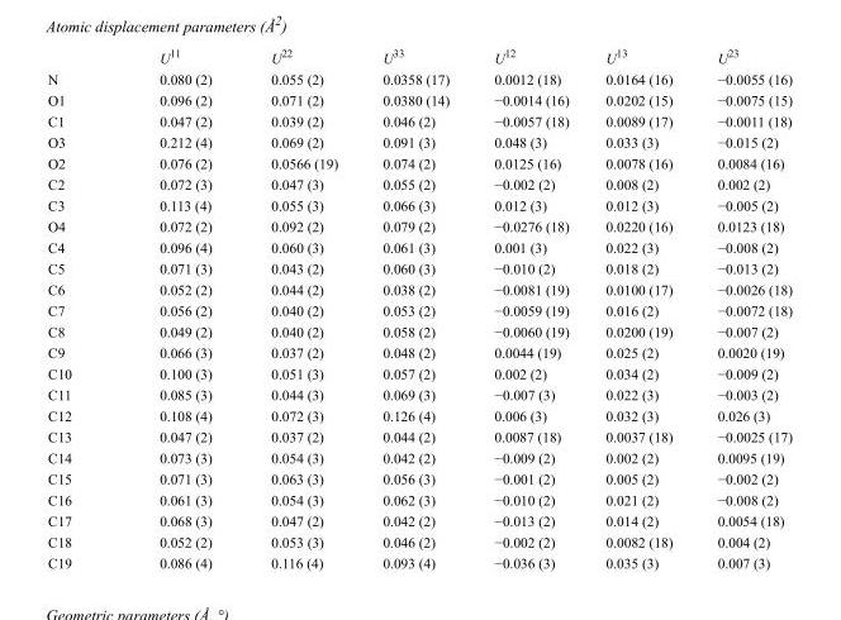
<table><thead><tr><td></td><td>U<sup>11</sup></td><td>U<sup>22</sup></td><td>U<sup>33</sup></td><td>U<sup>12</sup></td><td>U<sup>13</sup></td><td>U<sup>23</sup></td></tr></thead><tbody><tr><td>N</td><td>0.080 (2)</td><td>0.055 (2)</td><td>0.0358 (17)</td><td>0.0012 (18)</td><td>0.0164 (16)</td><td>−0.0055 (16)</td></tr><tr><td>O1</td><td>0.096 (2)</td><td>0.071 (2)</td><td>0.0380 (14)</td><td>−0.0014 (16)</td><td>0.0202 (15)</td><td>−0.0075 (15)</td></tr><tr><td>C1</td><td>0.047 (2)</td><td>0.039 (2)</td><td>0.046 (2)</td><td>−0.0057 (18)</td><td>0.0089 (17)</td><td>−0.0011 (18)</td></tr><tr><td>O3</td><td>0.212 (4)</td><td>0.069 (2)</td><td>0.091 (3)</td><td>0.048 (3)</td><td>0.033 (3)</td><td>−0.015 (2)</td></tr><tr><td>O2</td><td>0.076 (2)</td><td>0.0566 (19)</td><td>0.074 (2)</td><td>0.0125 (16)</td><td>0.0078 (16)</td><td>0.0084 (16)</td></tr><tr><td>C2</td><td>0.072 (3)</td><td>0.047 (3)</td><td>0.055 (2)</td><td>−0.002 (2)</td><td>0.008 (2)</td><td>0.002 (2)</td></tr><tr><td>C3</td><td>0.113 (4)</td><td>0.055 (3)</td><td>0.066 (3)</td><td>0.012 (3)</td><td>0.012 (3)</td><td>−0.005 (2)</td></tr><tr><td>O4</td><td>0.072 (2)</td><td>0.092 (2)</td><td>0.079 (2)</td><td>−0.0276 (18)</td><td>0.0220 (16)</td><td>0.0123 (18)</td></tr><tr><td>C4</td><td>0.096 (4)</td><td>0.060 (3)</td><td>0.061 (3)</td><td>0.001 (3)</td><td>0.022 (3)</td><td>−0.008 (2)</td></tr><tr><td>C5</td><td>0.071 (3)</td><td>0.043 (2)</td><td>0.060 (3)</td><td>−0.010 (2)</td><td>0.018 (2)</td><td>−0.013 (2)</td></tr><tr><td>C6</td><td>0.052 (2)</td><td>0.044 (2)</td><td>0.038 (2)</td><td>−0.0081 (19)</td><td>0.0100 (17)</td><td>−0.0026 (18)</td></tr><tr><td>C7</td><td>0.056 (2)</td><td>0.040 (2)</td><td>0.053 (2)</td><td>−0.0059 (19)</td><td>0.016 (2)</td><td>−0.0072 (18)</td></tr><tr><td>C8</td><td>0.049 (2)</td><td>0.040 (2)</td><td>0.058 (2)</td><td>−0.0060 (19)</td><td>0.0200 (19)</td><td>−0.007 (2)</td></tr><tr><td>C9</td><td>0.066 (3)</td><td>0.037 (2)</td><td>0.048 (2)</td><td>0.0044 (19)</td><td>0.025 (2)</td><td>0.0020 (19)</td></tr><tr><td>C10</td><td>0.100 (3)</td><td>0.051 (3)</td><td>0.057 (2)</td><td>0.002 (2)</td><td>0.034 (2)</td><td>−0.009 (2)</td></tr><tr><td>C11</td><td>0.085 (3)</td><td>0.044 (3)</td><td>0.069 (3)</td><td>−0.007 (3)</td><td>0.022 (3)</td><td>−0.003 (2)</td></tr><tr><td>C12</td><td>0.108 (4)</td><td>0.072 (3)</td><td>0.126 (4)</td><td>0.006 (3)</td><td>0.032 (3)</td><td>0.026 (3)</td></tr><tr><td>C13</td><td>0.047 (2)</td><td>0.037 (2)</td><td>0.044 (2)</td><td>0.0087 (18)</td><td>0.0037 (18)</td><td>−0.0025 (17)</td></tr><tr><td>C14</td><td>0.073 (3)</td><td>0.054 (3)</td><td>0.042 (2)</td><td>−0.009 (2)</td><td>0.002 (2)</td><td>0.0095 (19)</td></tr><tr><td>C15</td><td>0.071 (3)</td><td>0.063 (3)</td><td>0.056 (3)</td><td>−0.001 (2)</td><td>0.005 (2)</td><td>−0.002 (2)</td></tr><tr><td>C16</td><td>0.061 (3)</td><td>0.054 (3)</td><td>0.062 (3)</td><td>−0.010 (2)</td><td>0.021 (2)</td><td>−0.008 (2)</td></tr><tr><td>C17</td><td>0.068 (3)</td><td>0.047 (2)</td><td>0.042 (2)</td><td>−0.013 (2)</td><td>0.014 (2)</td><td>0.0054 (18)</td></tr><tr><td>C18</td><td>0.052 (2)</td><td>0.053 (3)</td><td>0.046 (2)</td><td>−0.002 (2)</td><td>0.0082 (18)</td><td>0.004 (2)</td></tr><tr><td>C19</td><td>0.086 (4)</td><td>0.116 (4)</td><td>0.093 (4)</td><td>−0.036 (3)</td><td>0.035 (3)</td><td>0.007 (3)</td></tr></tbody></table>